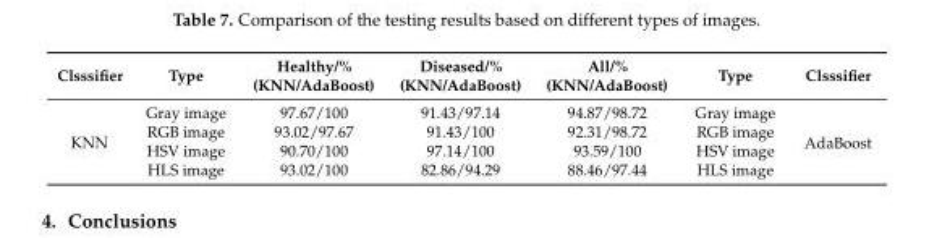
<table><thead><tr><td>Clsssifier</td><td>Type</td><td>Healthy/% (KNN/AdaBoost)</td><td>Diseased/% (KNN/AdaBoost)</td><td>All/% (KNN/AdaBoost)</td><td>Type</td><td>Clsssifier</td></tr></thead><tbody><tr><td rowspan="4">KNN</td><td>Gray image</td><td>97.67/100</td><td>91.43/97.14</td><td>94.87/98.72</td><td>Gray image</td><td rowspan="4">AdaBoost</td></tr><tr><td>RGB image</td><td>93.02/97.67</td><td>91.43/100</td><td>92.31/98.72</td><td>RGB image</td></tr><tr><td>HSV image</td><td>90.70/100</td><td>97.14/100</td><td>93.59/100</td><td>HSV image</td></tr><tr><td>HLS image</td><td>93.02/100</td><td>82.86/94.29</td><td>88.46/97.44</td><td>HLS image</td></tr></tbody></table>